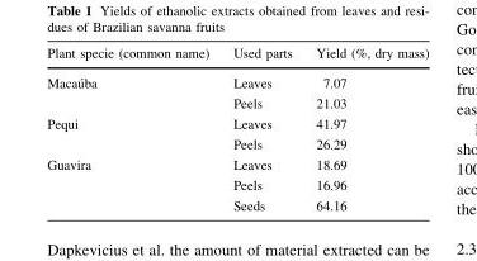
<table><thead><tr><td>Plant specie (common name)</td><td>Used parts</td><td>Yield (%, dry mass)</td></tr></thead><tbody><tr><td rowspan="2">Macau´ba</td><td>Leaves</td><td>7.07</td></tr><tr><td>Peels</td><td>21.03</td></tr><tr><td rowspan="2">Pequi</td><td>Leaves</td><td>41.97</td></tr><tr><td>Peels</td><td>26.29</td></tr><tr><td rowspan="3">Guavira</td><td>Leaves</td><td>18.69</td></tr><tr><td>Peels</td><td>16.96</td></tr><tr><td>Seeds</td><td>64.16</td></tr></tbody></table>